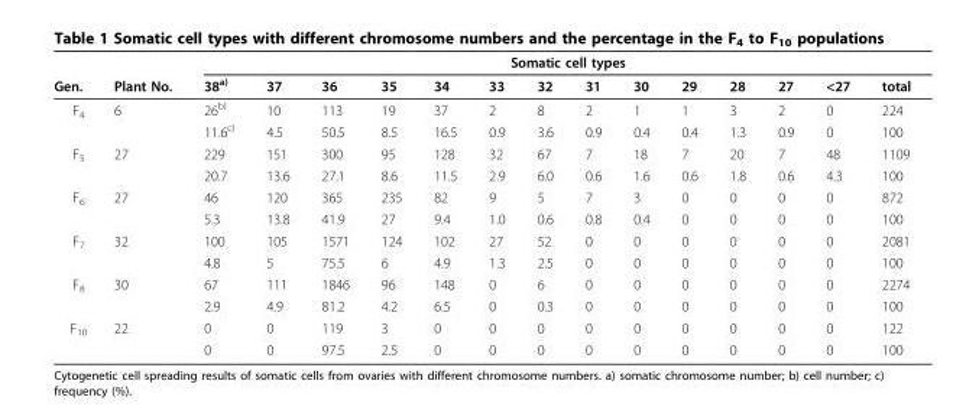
<table><thead><tr><td rowspan="2">Gen.</td><td rowspan="2">Plant No.</td><td colspan="14">Somatic cell types</td></tr><tr><td>38<sup>a)</sup></td><td>37</td><td>36</td><td>35</td><td>34</td><td>33</td><td>32</td><td>31</td><td>30</td><td>29</td><td>28</td><td>27</td><td>&lt;27</td><td>total</td></tr></thead><tbody><tr><td rowspan="2">F<sub>4</sub></td><td>6</td><td>26<sup>b)</sup></td><td>10</td><td>113</td><td>19</td><td>37</td><td>2</td><td>8</td><td>2</td><td>1</td><td>1</td><td>3</td><td>2</td><td>0</td><td>224</td></tr><tr><td></td><td>11.6<sup>c)</sup></td><td>4.5</td><td>50.5</td><td>8.5</td><td>16.5</td><td>0.9</td><td>3.6</td><td>0.9</td><td>0.4</td><td>0.4</td><td>1.3</td><td>0.9</td><td>0</td><td>100</td></tr><tr><td rowspan="2">F<sub>5</sub></td><td>27</td><td>229</td><td>151</td><td>300</td><td>95</td><td>128</td><td>32</td><td>67</td><td>7</td><td>18</td><td>7</td><td>20</td><td>7</td><td>48</td><td>1109</td></tr><tr><td></td><td>20.7</td><td>13.6</td><td>27.1</td><td>8.6</td><td>11.5</td><td>2.9</td><td>6.0</td><td>0.6</td><td>1.6</td><td>0.6</td><td>1.8</td><td>0.6</td><td>4.3</td><td>100</td></tr><tr><td rowspan="2">F<sub>6</sub></td><td>27</td><td>46</td><td>120</td><td>365</td><td>235</td><td>82</td><td>9</td><td>5</td><td>7</td><td>3</td><td>0</td><td>0</td><td>0</td><td>0</td><td>872</td></tr><tr><td></td><td>5.3</td><td>13.8</td><td>41.9</td><td>27</td><td>9.4</td><td>1.0</td><td>0.6</td><td>0.8</td><td>0.4</td><td>0</td><td>0</td><td>0</td><td>0</td><td>100</td></tr><tr><td rowspan="2">F<sub>7</sub></td><td>32</td><td>100</td><td>105</td><td>1571</td><td>124</td><td>102</td><td>27</td><td>52</td><td>0</td><td>0</td><td>0</td><td>0</td><td>0</td><td>0</td><td>2081</td></tr><tr><td></td><td>4.8</td><td>5</td><td>75.5</td><td>6</td><td>4.9</td><td>1.3</td><td>2.5</td><td>0</td><td>0</td><td>0</td><td>0</td><td>0</td><td>0</td><td>100</td></tr><tr><td rowspan="2">F<sub>8</sub></td><td>30</td><td>67</td><td>111</td><td>1846</td><td>96</td><td>148</td><td>0</td><td>6</td><td>0</td><td>0</td><td>0</td><td>0</td><td>0</td><td>0</td><td>2274</td></tr><tr><td></td><td>2.9</td><td>4.9</td><td>81.2</td><td>4.2</td><td>6.5</td><td>0</td><td>0.3</td><td>0</td><td>0</td><td>0</td><td>0</td><td>0</td><td>0</td><td>100</td></tr><tr><td rowspan="2">F<sub>10</sub></td><td>22</td><td>0</td><td>0</td><td>119</td><td>3</td><td>0</td><td>0</td><td>0</td><td>0</td><td>0</td><td>0</td><td>0</td><td>0</td><td>0</td><td>122</td></tr><tr><td></td><td>0</td><td>0</td><td>97.5</td><td>2.5</td><td>0</td><td>0</td><td>0</td><td>0</td><td>0</td><td>0</td><td>0</td><td>0</td><td>0</td><td>100</td></tr></tbody></table>